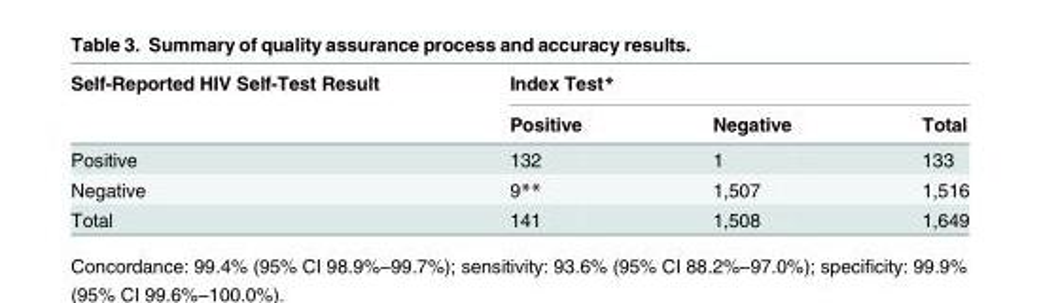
<table><thead><tr><td rowspan="2">Self-Reported HIV Self-Test Result</td><td colspan="3">Index Test*</td></tr><tr><td>Positive</td><td>Negative</td><td>Total</td></tr></thead><tbody><tr><td>Positive</td><td>132</td><td>1</td><td>133</td></tr><tr><td>Negative</td><td>9**</td><td>1,507</td><td>1,516</td></tr><tr><td>Total</td><td>141</td><td>1,508</td><td>1,649</td></tr></tbody></table>